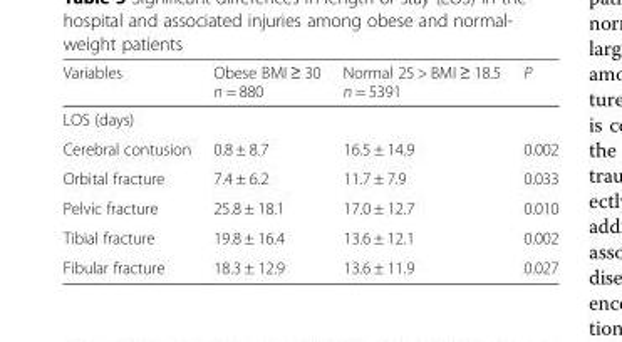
<table><thead><tr><td>Variables</td><td>Obese BMI ≥ 30 n = 880</td><td>Normal 25 &gt; BMI ≥ 18.5 n = 5391</td><td>P</td></tr></thead><tbody><tr><td colspan="4">LOS (days)</td></tr><tr><td>Cerebral contusion</td><td>0.8 ± 8.7</td><td>16.5 ± 14.9</td><td>0.002</td></tr><tr><td>Orbital fracture</td><td>7.4 ± 6.2</td><td>11.7 ± 7.9</td><td>0.033</td></tr><tr><td>Pelvic fracture</td><td>25.8 ± 18.1</td><td>17.0 ± 12.7</td><td>0.010</td></tr><tr><td>Tibial fracture</td><td>19.8 ± 16.4</td><td>13.6 ± 12.1</td><td>0.002</td></tr><tr><td>Fibular fracture</td><td>18.3 ± 12.9</td><td>13.6 ± 11.9</td><td>0.027</td></tr></tbody></table>